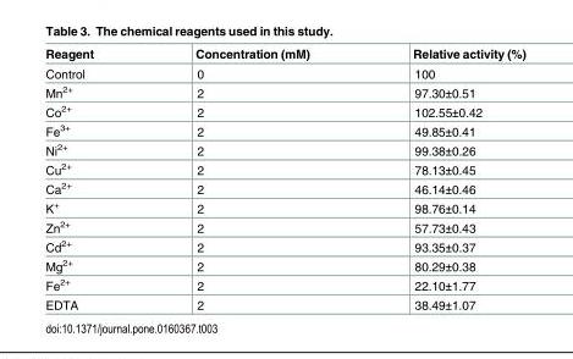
<table><thead><tr><td>Reagent</td><td>Concentration (mM)</td><td>Relative activity (%)</td></tr></thead><tbody><tr><td>Control</td><td>0</td><td>100</td></tr><tr><td>Mn<sup>2+</sup></td><td>2</td><td>97.30±0.51</td></tr><tr><td>Co<sup>2+</sup></td><td>2</td><td>102.55±0.42</td></tr><tr><td>Fe<sup>3+</sup></td><td>2</td><td>49.85±0.41</td></tr><tr><td>Ni<sup>2+</sup></td><td>2</td><td>99.38±0.26</td></tr><tr><td>Cu<sup>2+</sup></td><td>2</td><td>78.13±0.45</td></tr><tr><td>Ca<sup>2+</sup></td><td>2</td><td>46.14±0.46</td></tr><tr><td>K<sup>+</sup></td><td>2</td><td>98.76±0.14</td></tr><tr><td>Zn<sup>2+</sup></td><td>2</td><td>57.73±0.43</td></tr><tr><td>Cd<sup>2+</sup></td><td>2</td><td>93.35±0.37</td></tr><tr><td>Mg<sup>2+</sup></td><td>2</td><td>80.29±0.38</td></tr><tr><td>Fe<sup>2+</sup></td><td>2</td><td>22.10±1.77</td></tr><tr><td>EDTA</td><td>2</td><td>38.49±1.07</td></tr></tbody></table>